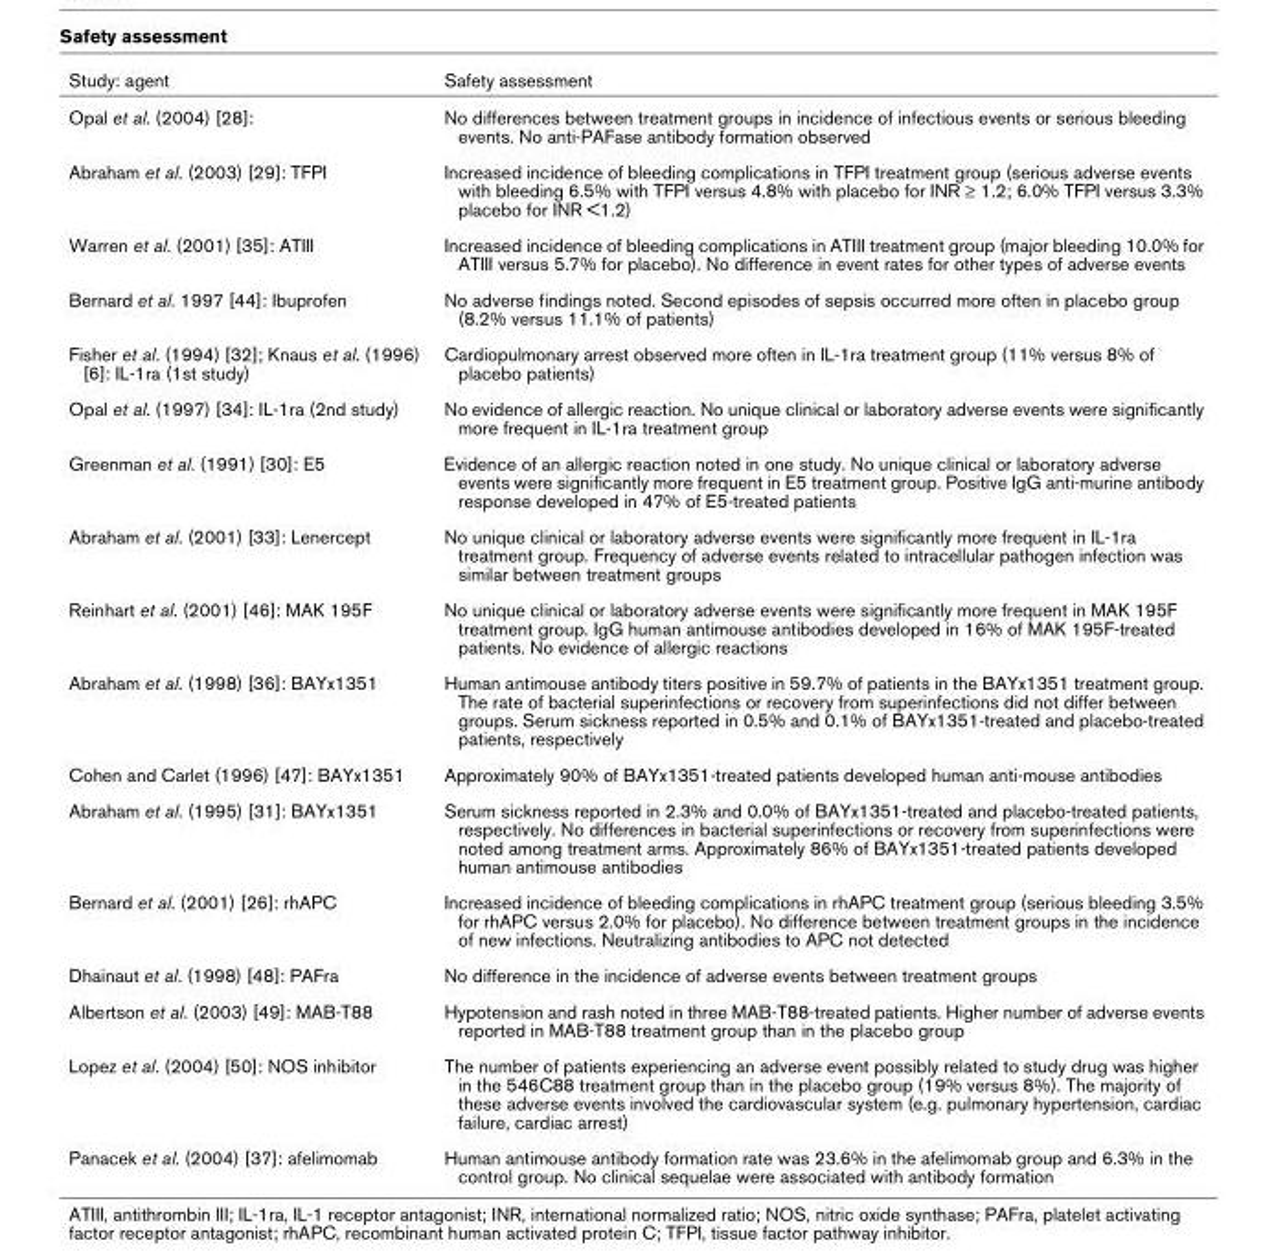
<table><thead><tr><td>Study: agent</td><td>Safety assessment</td></tr></thead><tbody><tr><td>Opal et al. (2004) [28]:</td><td>No differences between treatment groups in incidence of infectious events or serious bleeding events. No anti-PAFase antibody formation observed</td></tr><tr><td>Abraham et al. (2003) [29]: TFPI</td><td>Increased incidence of bleeding complications in TFPI treatment group (serious adverse events with bleeding 6.5% with TFPI versus 4.8% with placebo for INR ≥ 1.2; 6.0% TFPI versus 3.3% placebo for INR &lt;1.2)</td></tr><tr><td>Warren et al. (2001) [35]: ATIII</td><td>Increased incidence of bleeding complications in ATIII treatment group (major bleeding 10.0% for ATIII versus 5.7% for placebo). No difference in event rates for other types of adverse events</td></tr><tr><td>Bernard et al. 1997 [44]: Ibuprofen</td><td>No adverse findings noted. Second episodes of sepsis occurred more often in placebo group (8.2% versus 11.1% of patients)</td></tr><tr><td>Fisher et al. (1994) [32]; Knaus et al. (1996) [6]: IL-1ra (1st study)</td><td>Cardiopulmonary arrest observed more often in IL-1ra treatment group (11% versus 8% of placebo patients)</td></tr><tr><td>Opal et al. (1997) [34]: IL-1ra (2nd study)</td><td>No evidence of allergic reaction. No unique clinical or laboratory adverse events were significantly more frequent in IL-1ra treatment group</td></tr><tr><td>Greenman et al. (1991) [30]: E5</td><td>Evidence of an allergic reaction noted in one study. No unique clinical or laboratory adverse events were significantly more frequent in E5 treatment group. Positive IgG anti-murine antibody response developed in 47% of E5-treated patients</td></tr><tr><td>Abraham et al. (2001) [33]: Lenercept</td><td>No unique clinical or laboratory adverse events were significantly more frequent in IL-1ra treatment group. Frequency of adverse events related to intracellular pathogen infection was similar between treatment groups</td></tr><tr><td>Reinhart et al. (2001) [46]: MAK 195F</td><td>No unique clinical or laboratory adverse events were significantly more frequent in MAK 195F treatment group. IgG human antimouse antibodies developed in 16% of MAK 195F-treated patients. No evidence of allergic reactions</td></tr><tr><td>Abraham et al. (1998) [36]: BAYx1351</td><td>Human antimouse antibody titers positive in 59.7% of patients in the BAYx1351 treatment group. The rate of bacterial superinfections or recovery from superinfections did not differ between groups. Serum sickness reported in 0.5% and 0.1% of BAYx1351-treated and placebo-treated patients, respectively</td></tr><tr><td>Cohen and Carlet (1996) [47]: BAYx1351</td><td>Approximately 90% of BAYx1351-treated patients developed human anti-mouse antibodies</td></tr><tr><td>Abraham et al. (1995) [31]: BAYx1351</td><td>Serum sickness reported in 2.3% and 0.0% of BAYx1351-treated and placebo-treated patients, respectively. No differences in bacterial superinfections or recovery from superinfections were noted among treatment arms. Approximately 86% of BAYx1351-treated patients developed human antimouse antibodies</td></tr><tr><td>Bernard et al. (2001) [26]: rhAPC</td><td>Increased incidence of bleeding complications in rhAPC treatment group (serious bleeding 3.5% for rhAPC versus 2.0% for placebo). No difference between treatment groups in the incidence of new infections. Neutralizing antibodies to APC not detected</td></tr><tr><td>Dhainaut et al. (1998) [48]: PAFra</td><td>No difference in the incidence of adverse events between treatment groups</td></tr><tr><td>Albertson et al. (2003) [49]: MAB-T88</td><td>Hypotension and rash noted in three MAB-T88-treated patients. Higher number of adverse events reported in MAB-T88 treatment group than in the placebo group</td></tr><tr><td>Lopez et al. (2004) [50]: NOS inhibitor</td><td>The number of patients experiencing an adverse event possibly related to study drug was higher in the 546C88 treatment group than in the placebo group (19% versus 8%). The majority of these adverse events involved the cardiovascular system (e.g. pulmonary hypertension, cardiac failure, cardiac arrest)</td></tr><tr><td>Panacek et al. (2004) [37]: afelimomab</td><td>Human antimouse antibody formation rate was 23.6% in the afelimomab group and 6.3% in the control group. No clinical sequelae were associated with antibody formation</td></tr></tbody></table>